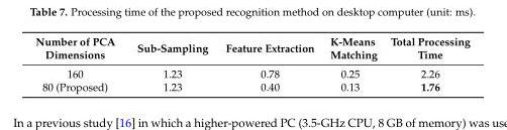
<table><thead><tr><td>Number of PCA Dimensions</td><td>Sub-Sampling</td><td>Feature Extraction</td><td>K-Means Matching</td><td>Total Processing Time</td></tr></thead><tbody><tr><td>160</td><td>1.23</td><td>0.78</td><td>0.25</td><td>2.26</td></tr><tr><td>80 (Proposed)</td><td>1.23</td><td>0.40</td><td>0.13</td><td>1.76</td></tr></tbody></table>